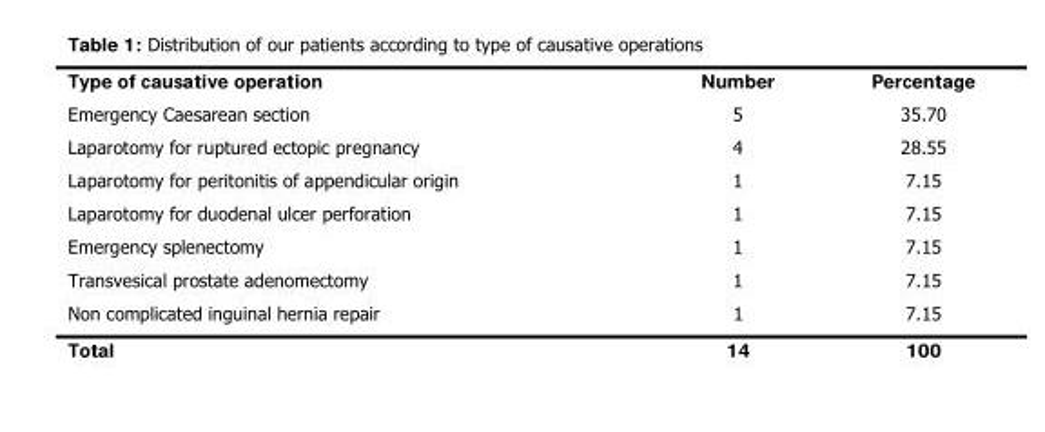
<table><thead><tr><td>Type of causative operation</td><td>Number</td><td>Percentage</td></tr></thead><tbody><tr><td>Emergency Caesarean section</td><td>5</td><td>35.70</td></tr><tr><td>Laparotomy for ruptured ectopic pregnancy</td><td>4</td><td>28.55</td></tr><tr><td>Laparotomy for peritonitis of appendicular origin</td><td>1</td><td>7.15</td></tr><tr><td>Laparotomy for duodenal ulcer perforation</td><td>1</td><td>7.15</td></tr><tr><td>Emergency splenectomy</td><td>1</td><td>7.15</td></tr><tr><td>Transvesical prostate adenomectomy</td><td>1</td><td>7.15</td></tr><tr><td>Non complicated inguinal hernia repair</td><td>1</td><td>7.15</td></tr><tr><td>Total</td><td>14</td><td>100</td></tr></tbody></table>